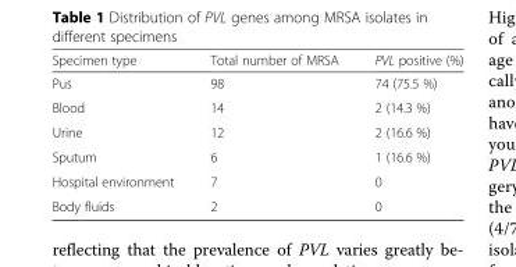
<table><thead><tr><td>Specimen type</td><td>Total number of MRSA</td><td>PVL positive (%)</td></tr></thead><tbody><tr><td>Pus</td><td>98</td><td>74 (75.5 %)</td></tr><tr><td>Blood</td><td>14</td><td>2 (14.3 %)</td></tr><tr><td>Urine</td><td>12</td><td>2 (16.6 %)</td></tr><tr><td>Sputum</td><td>6</td><td>1 (16.6 %)</td></tr><tr><td>Hospital environment</td><td>7</td><td>0</td></tr><tr><td>Body fluids</td><td>2</td><td>0</td></tr></tbody></table>